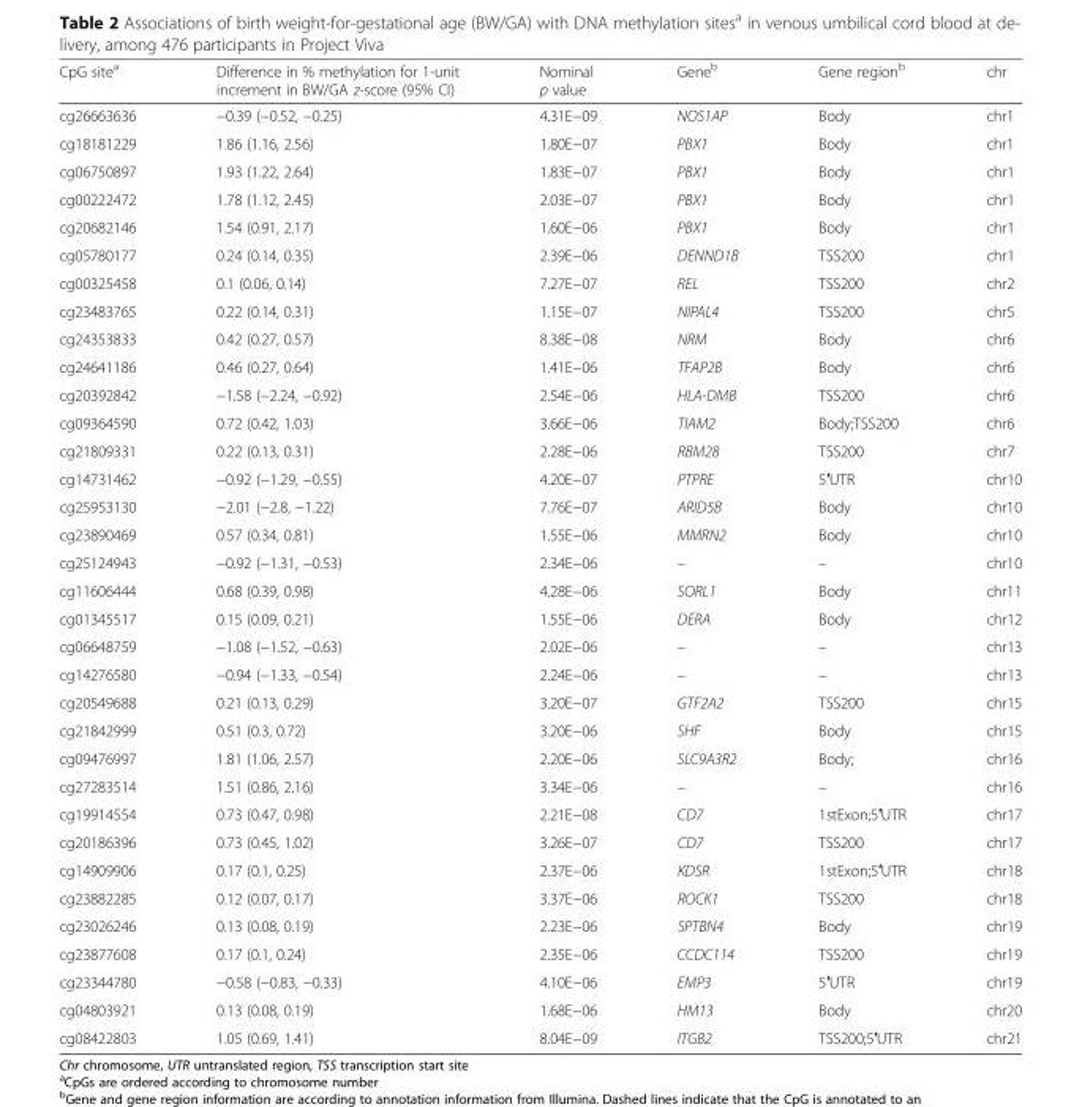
<table><thead><tr><td>CpG site<sup>a</sup></td><td>Difference in % methylation for 1-unit increment in BW/GA z-score (95% CI)</td><td>Nominal p value</td><td>Gene<sup>b</sup></td><td>Gene region<sup>b</sup></td><td>chr</td></tr></thead><tbody><tr><td>cg26663636</td><td>−0.39 (−0.52, −0.25)</td><td>4.31E−09</td><td>NOS1AP</td><td>Body</td><td>chr1</td></tr><tr><td>cg18181229</td><td>1.86 (1.16, 2.56)</td><td>1.80E−07</td><td>PBX1</td><td>Body</td><td>chr1</td></tr><tr><td>cg06750897</td><td>1.93 (1.22, 2.64)</td><td>1.83E−07</td><td>PBX1</td><td>Body</td><td>chr1</td></tr><tr><td>cg00222472</td><td>1.78 (1.12, 2.45)</td><td>2.03E−07</td><td>PBX1</td><td>Body</td><td>chr1</td></tr><tr><td>cg20682146</td><td>1.54 (0.91, 2.17)</td><td>1.60E−06</td><td>PBX1</td><td>Body</td><td>chr1</td></tr><tr><td>cg05780177</td><td>0.24 (0.14, 0.35)</td><td>2.39E−06</td><td>DENND1B</td><td>TSS200</td><td>chr1</td></tr><tr><td>cg00325458</td><td>0.1 (0.06, 0.14)</td><td>7.27E−07</td><td>REL</td><td>TSS200</td><td>chr2</td></tr><tr><td>cg23483765</td><td>0.22 (0.14, 0.31)</td><td>1.15E−07</td><td>NIPAL4</td><td>TSS200</td><td>chr5</td></tr><tr><td>cg24353833</td><td>0.42 (0.27, 0.57)</td><td>8.38E−08</td><td>NRM</td><td>Body</td><td>chr6</td></tr><tr><td>cg24641186</td><td>0.46 (0.27, 0.64)</td><td>1.41E−06</td><td>TFAP2B</td><td>Body</td><td>chr6</td></tr><tr><td>cg20392842</td><td>−1.58 (−2.24, −0.92)</td><td>2.54E−06</td><td>HLA-DMB</td><td>TSS200</td><td>chr6</td></tr><tr><td>cg09364590</td><td>0.72 (0.42, 1.03)</td><td>3.66E−06</td><td>TIAM2</td><td>Body;TSS200</td><td>chr6</td></tr><tr><td>cg21809331</td><td>0.22 (0.13, 0.31)</td><td>2.28E−06</td><td>RBM28</td><td>TSS200</td><td>chr7</td></tr><tr><td>cg14731462</td><td>−0.92 (−1.29, −0.55)</td><td>4.20E−07</td><td>PTPRE</td><td>5′UTR</td><td>chr10</td></tr><tr><td>cg25953130</td><td>−2.01 (−2.8, −1.22)</td><td>7.76E−07</td><td>ARID5B</td><td>Body</td><td>chr10</td></tr><tr><td>cg23890469</td><td>0.57 (0.34, 0.81)</td><td>1.55E−06</td><td>MMRN2</td><td>Body</td><td>chr10</td></tr><tr><td>cg25124943</td><td>−0.92 (−1.31, −0.53)</td><td>2.34E−06</td><td>–</td><td>–</td><td>chr10</td></tr><tr><td>cg11606444</td><td>0.68 (0.39, 0.98)</td><td>4.28E−06</td><td>SORL1</td><td>Body</td><td>chr11</td></tr><tr><td>cg01345517</td><td>0.15 (0.09, 0.21)</td><td>1.55E−06</td><td>DERA</td><td>Body</td><td>chr12</td></tr><tr><td>cg06648759</td><td>−1.08 (−1.52, −0.63)</td><td>2.02E−06</td><td>–</td><td>–</td><td>chr13</td></tr><tr><td>cg14276580</td><td>−0.94 (−1.33, −0.54)</td><td>2.24E−06</td><td>–</td><td>–</td><td>chr13</td></tr><tr><td>cg20549688</td><td>0.21 (0.13, 0.29)</td><td>3.20E−07</td><td>GTF2A2</td><td>TSS200</td><td>chr15</td></tr><tr><td>cg21842999</td><td>0.51 (0.3, 0.72)</td><td>3.20E−06</td><td>SHF</td><td>Body</td><td>chr15</td></tr><tr><td>cg09476997</td><td>1.81 (1.06, 2.57)</td><td>2.20E−06</td><td>SLC9A3R2</td><td>Body;</td><td>chr16</td></tr><tr><td>cg27283514</td><td>1.51 (0.86, 2.16)</td><td>3.34E−06</td><td>–</td><td>–</td><td>chr16</td></tr><tr><td>cg19914554</td><td>0.73 (0.47, 0.98)</td><td>2.21E−08</td><td>CD7</td><td>1stExon;5′UTR</td><td>chr17</td></tr><tr><td>cg20186396</td><td>0.73 (0.45, 1.02)</td><td>3.26E−07</td><td>CD7</td><td>TSS200</td><td>chr17</td></tr><tr><td>cg14909906</td><td>0.17 (0.1, 0.25)</td><td>2.37E−06</td><td>KDSR</td><td>1stExon;5′UTR</td><td>chr18</td></tr><tr><td>cg23882285</td><td>0.12 (0.07, 0.17)</td><td>3.37E−06</td><td>ROCK1</td><td>TSS200</td><td>chr18</td></tr><tr><td>cg23026246</td><td>0.13 (0.08, 0.19)</td><td>2.23E−06</td><td>SPTBN4</td><td>Body</td><td>chr19</td></tr><tr><td>cg23877608</td><td>0.17 (0.1, 0.24)</td><td>2.35E−06</td><td>CCDC114</td><td>TSS200</td><td>chr19</td></tr><tr><td>cg23344780</td><td>−0.58 (−0.83, −0.33)</td><td>4.10E−06</td><td>EMP3</td><td>5′UTR</td><td>chr19</td></tr><tr><td>cg04803921</td><td>0.13 (0.08, 0.19)</td><td>1.68E−06</td><td>HM13</td><td>Body</td><td>chr20</td></tr><tr><td>cg08422803</td><td>1.05 (0.69, 1.41)</td><td>8.04E−09</td><td>ITGB2</td><td>TSS200;5′UTR</td><td>chr21</td></tr></tbody></table>